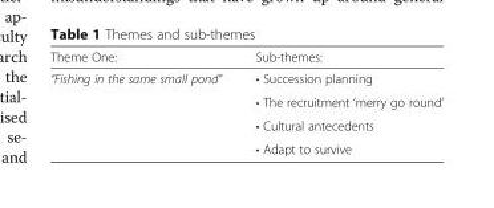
<table><thead><tr><td>Theme One:</td><td>Sub-themes:</td></tr></thead><tbody><tr><td rowspan="4">“Fishing in the same small pond”</td><td>• Succession planning</td></tr><tr><td>• The recruitment ‘merry go round’</td></tr><tr><td>• Cultural antecedents</td></tr><tr><td>• Adapt to survive</td></tr></tbody></table>